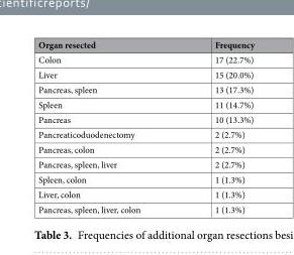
<table><thead><tr><td>Organ resected</td><td>Frequency</td></tr></thead><tbody><tr><td>Colon</td><td>17 (22.7%)</td></tr><tr><td>Liver</td><td>15 (20.0%)</td></tr><tr><td>Pancreas, spleen</td><td>13 (17.3%)</td></tr><tr><td>Spleen</td><td>11 (14.7%)</td></tr><tr><td>Pancreas</td><td>10 (13.3%)</td></tr><tr><td>Pancreaticoduodenectomy</td><td>2 (2.7%)</td></tr><tr><td>Pancreas, colon</td><td>2 (2.7%)</td></tr><tr><td>Pancreas, spleen, liver</td><td>2 (2.7%)</td></tr><tr><td>Spleen, colon</td><td>1 (1.3%)</td></tr><tr><td>Liver, colon</td><td>1 (1.3%)</td></tr><tr><td>Pancreas, spleen, liver, colon</td><td>1 (1.3%)</td></tr></tbody></table>